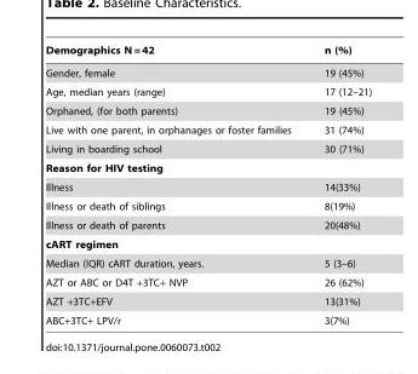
<table><thead><tr><td>Demographics N = 42</td><td>n (%)</td></tr></thead><tbody><tr><td>Gender, female</td><td>19 (45%)</td></tr><tr><td>Age, median years (range)</td><td>17 (12–21)</td></tr><tr><td>Orphaned, (for both parents)</td><td>19 (45%)</td></tr><tr><td>Live with one parent, in orphanages or foster families</td><td>31 (74%)</td></tr><tr><td>Living in boarding school</td><td>30 (71%)</td></tr><tr><td colspan="2">Reason for HIV testing</td></tr><tr><td>Illness</td><td>14(33%)</td></tr><tr><td>Illness or death of siblings</td><td>8(19%)</td></tr><tr><td>Illness or death of parents</td><td>20(48%)</td></tr><tr><td colspan="2">cART regimen</td></tr><tr><td>Median (IQR) cART duration, years.</td><td>5 (3–6)</td></tr><tr><td>AZT or ABC or D4T +3TC+ NVP</td><td>26 (62%)</td></tr><tr><td>AZT +3TC+EFV</td><td>13(31%)</td></tr><tr><td>ABC+3TC+ LPV/r</td><td>3(7%)</td></tr></tbody></table>